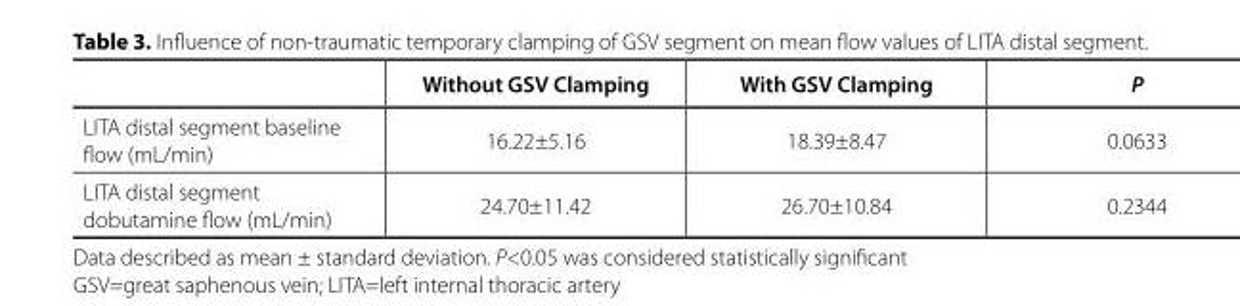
<table><thead><tr><td></td><td>Without GSV Clamping</td><td>With GSV Clamping</td><td>P</td></tr></thead><tbody><tr><td>LITA distal segment baseline flow (mL/min)</td><td>16.22±5.16</td><td>18.39±8.47</td><td>0.0633</td></tr><tr><td>LITA distal segment dobutamine flow (mL/min)</td><td>24.70±11.42</td><td>26.70±10.84</td><td>0.2344</td></tr></tbody></table>